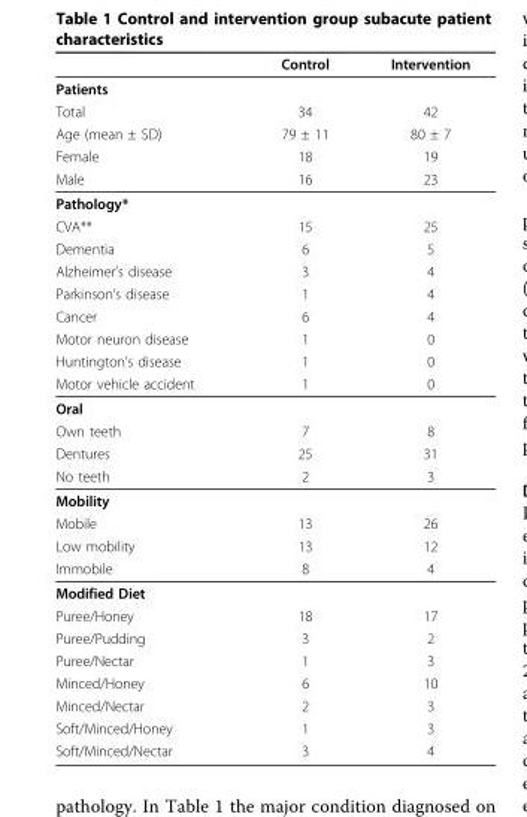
<table><thead><tr><td></td><td>Control</td><td>Intervention</td></tr></thead><tbody><tr><td colspan="3">Patients</td></tr><tr><td>Total</td><td>34</td><td>42</td></tr><tr><td>Age (mean ± SD)</td><td>79 ± 11</td><td>80 ± 7</td></tr><tr><td>Female</td><td>18</td><td>19</td></tr><tr><td>Male</td><td>16</td><td>23</td></tr><tr><td colspan="3">Pathology*</td></tr><tr><td>CVA**</td><td>15</td><td>25</td></tr><tr><td>Dementia</td><td>6</td><td>5</td></tr><tr><td>Alzheimer’s disease</td><td>3</td><td>4</td></tr><tr><td>Parkinson’s disease</td><td>1</td><td>4</td></tr><tr><td>Cancer</td><td>6</td><td>4</td></tr><tr><td>Motor neuron disease</td><td>1</td><td>0</td></tr><tr><td>Huntington’s disease</td><td>1</td><td>0</td></tr><tr><td>Motor vehicle accident</td><td>1</td><td>0</td></tr><tr><td colspan="3">Oral</td></tr><tr><td>Own teeth</td><td>7</td><td>8</td></tr><tr><td>Dentures</td><td>25</td><td>31</td></tr><tr><td>No teeth</td><td>2</td><td>3</td></tr><tr><td colspan="3">Mobility</td></tr><tr><td>Mobile</td><td>13</td><td>26</td></tr><tr><td>Low mobility</td><td>13</td><td>12</td></tr><tr><td>Immobile</td><td>8</td><td>4</td></tr><tr><td colspan="3">Modified Diet</td></tr><tr><td>Puree/Honey</td><td>18</td><td>17</td></tr><tr><td>Puree/Pudding</td><td>3</td><td>2</td></tr><tr><td>Puree/Nectar</td><td>1</td><td>3</td></tr><tr><td>Minced/Honey</td><td>6</td><td>10</td></tr><tr><td>Minced/Nectar</td><td>2</td><td>3</td></tr><tr><td>Soft/Minced/Honey</td><td>1</td><td>3</td></tr><tr><td>Soft/Minced/Nectar</td><td>3</td><td>4</td></tr></tbody></table>